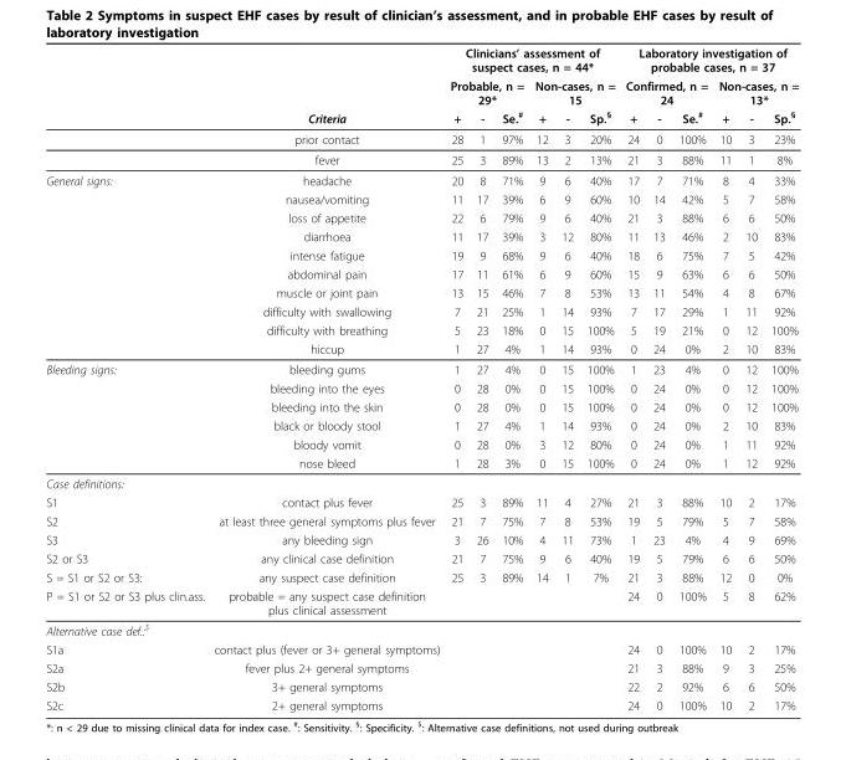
<table><thead><tr><td rowspan="3"></td><td rowspan="3">Criteria</td><td colspan="6">Clinicians’ assessment of suspect cases, n = 44*</td><td colspan="6">Laboratory investigation of probable cases, n = 37</td></tr><tr><td colspan="3">Probable, n = 29*</td><td colspan="3">Non-cases, n = 15</td><td colspan="3">Confirmed, n = 24</td><td colspan="3">Non-cases, n = 13*</td></tr><tr><td>+</td><td>-</td><td>Se.<sup>#</sup></td><td>+</td><td>-</td><td>Sp.<sup>§</sup></td><td>+</td><td>-</td><td>Se.<sup>#</sup></td><td>+</td><td>-</td><td>Sp.<sup>§</sup></td></tr></thead><tbody><tr><td></td><td>prior contact</td><td>28</td><td>1</td><td>97%</td><td>12</td><td>3</td><td>20%</td><td>24</td><td>0</td><td>100%</td><td>10</td><td>3</td><td>23%</td></tr><tr><td></td><td>fever</td><td>25</td><td>3</td><td>89%</td><td>13</td><td>2</td><td>13%</td><td>21</td><td>3</td><td>88%</td><td>11</td><td>1</td><td>8%</td></tr><tr><td rowspan="10">General signs:</td><td>headache</td><td>20</td><td>8</td><td>71%</td><td>9</td><td>6</td><td>40%</td><td>17</td><td>7</td><td>71%</td><td>8</td><td>4</td><td>33%</td></tr><tr><td>nausea/vomiting</td><td>11</td><td>17</td><td>39%</td><td>6</td><td>9</td><td>60%</td><td>10</td><td>14</td><td>42%</td><td>5</td><td>7</td><td>58%</td></tr><tr><td>loss of appetite</td><td>22</td><td>6</td><td>79%</td><td>9</td><td>6</td><td>40%</td><td>21</td><td>3</td><td>88%</td><td>6</td><td>6</td><td>50%</td></tr><tr><td>diarrhoea</td><td>11</td><td>17</td><td>39%</td><td>3</td><td>12</td><td>80%</td><td>11</td><td>13</td><td>46%</td><td>2</td><td>10</td><td>83%</td></tr><tr><td>intense fatigue</td><td>19</td><td>9</td><td>68%</td><td>9</td><td>6</td><td>40%</td><td>18</td><td>6</td><td>75%</td><td>7</td><td>5</td><td>42%</td></tr><tr><td>abdominal pain</td><td>17</td><td>11</td><td>61%</td><td>6</td><td>9</td><td>60%</td><td>15</td><td>9</td><td>63%</td><td>6</td><td>6</td><td>50%</td></tr><tr><td>muscle or joint pain</td><td>13</td><td>15</td><td>46%</td><td>7</td><td>8</td><td>53%</td><td>13</td><td>11</td><td>54%</td><td>4</td><td>8</td><td>67%</td></tr><tr><td>difficulty with swallowing</td><td>7</td><td>21</td><td>25%</td><td>1</td><td>14</td><td>93%</td><td>7</td><td>17</td><td>29%</td><td>1</td><td>11</td><td>92%</td></tr><tr><td>difficulty with breathing</td><td>5</td><td>23</td><td>18%</td><td>0</td><td>15</td><td>100%</td><td>5</td><td>19</td><td>21%</td><td>0</td><td>12</td><td>100%</td></tr><tr><td>hiccup</td><td>1</td><td>27</td><td>4%</td><td>1</td><td>14</td><td>93%</td><td>0</td><td>24</td><td>0%</td><td>2</td><td>10</td><td>83%</td></tr><tr><td rowspan="6">Bleeding signs:</td><td>bleeding gums</td><td>1</td><td>27</td><td>4%</td><td>0</td><td>15</td><td>100%</td><td>1</td><td>23</td><td>4%</td><td>0</td><td>12</td><td>100%</td></tr><tr><td>bleeding into the eyes</td><td>0</td><td>28</td><td>0%</td><td>0</td><td>15</td><td>100%</td><td>0</td><td>24</td><td>0%</td><td>0</td><td>12</td><td>100%</td></tr><tr><td>bleeding into the skin</td><td>0</td><td>28</td><td>0%</td><td>0</td><td>15</td><td>100%</td><td>0</td><td>24</td><td>0%</td><td>0</td><td>12</td><td>100%</td></tr><tr><td>black or bloody stool</td><td>1</td><td>27</td><td>4%</td><td>1</td><td>14</td><td>93%</td><td>0</td><td>24</td><td>0%</td><td>2</td><td>10</td><td>83%</td></tr><tr><td>bloody vomit</td><td>0</td><td>28</td><td>0%</td><td>3</td><td>12</td><td>80%</td><td>0</td><td>24</td><td>0%</td><td>1</td><td>11</td><td>92%</td></tr><tr><td>nose bleed</td><td>1</td><td>28</td><td>3%</td><td>0</td><td>15</td><td>100%</td><td>0</td><td>24</td><td>0%</td><td>1</td><td>12</td><td>92%</td></tr><tr><td colspan="14">Case definitions:</td></tr><tr><td>S1</td><td>contact plus fever</td><td>25</td><td>3</td><td>89%</td><td>11</td><td>4</td><td>27%</td><td>21</td><td>3</td><td>88%</td><td>10</td><td>2</td><td>17%</td></tr><tr><td>S2</td><td>at least three general symptoms plus fever</td><td>21</td><td>7</td><td>75%</td><td>7</td><td>8</td><td>53%</td><td>19</td><td>5</td><td>79%</td><td>5</td><td>7</td><td>58%</td></tr><tr><td>S3</td><td>any bleeding sign</td><td>3</td><td>26</td><td>10%</td><td>4</td><td>11</td><td>73%</td><td>1</td><td>23</td><td>4%</td><td>4</td><td>9</td><td>69%</td></tr><tr><td>S2 or S3</td><td>any clinical case definition</td><td>21</td><td>7</td><td>75%</td><td>9</td><td>6</td><td>40%</td><td>19</td><td>5</td><td>79%</td><td>6</td><td>6</td><td>50%</td></tr><tr><td>S = S1 or S2 or S3:</td><td>any suspect case definition</td><td>25</td><td>3</td><td>89%</td><td>14</td><td>1</td><td>7%</td><td>21</td><td>3</td><td>88%</td><td>12</td><td>0</td><td>0%</td></tr><tr><td>P = S1 or S2 or S3 plus clin.ass.</td><td>probable = any suspect case definition plus clinical assessment</td><td></td><td></td><td></td><td></td><td></td><td></td><td>24</td><td>0</td><td>100%</td><td>5</td><td>8</td><td>62%</td></tr><tr><td colspan="14">Alternative case def.:<sup>$</sup></td></tr><tr><td>S1a</td><td>contact plus (fever or 3+ general symptoms)</td><td></td><td></td><td></td><td></td><td></td><td></td><td>24</td><td>0</td><td>100%</td><td>10</td><td>2</td><td>17%</td></tr><tr><td>S2a</td><td>fever plus 2+ general symptoms</td><td></td><td></td><td></td><td></td><td></td><td></td><td>21</td><td>3</td><td>88%</td><td>9</td><td>3</td><td>25%</td></tr><tr><td>S2b</td><td>3+ general symptoms</td><td></td><td></td><td></td><td></td><td></td><td></td><td>22</td><td>2</td><td>92%</td><td>6</td><td>6</td><td>50%</td></tr><tr><td>S2c</td><td>2+ general symptoms</td><td></td><td></td><td></td><td></td><td></td><td></td><td>24</td><td>0</td><td>100%</td><td>10</td><td>2</td><td>17%</td></tr></tbody></table>